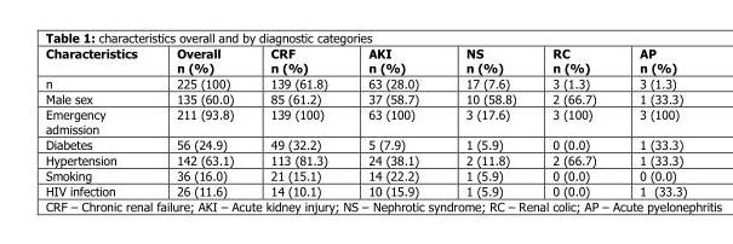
<table><thead><tr><td>Characteristics</td><td>Overall n (%)</td><td>CRF n (%)</td><td>AKI n (%)</td><td>NS n (%)</td><td>RC n (%)</td><td>AP n (%)</td></tr></thead><tbody><tr><td>n</td><td>225 (100)</td><td>139 (61.8)</td><td>63 (28.0)</td><td>17 (7.6)</td><td>3 (1.3)</td><td>3 (1.3)</td></tr><tr><td>Male sex</td><td>135 (60.0)</td><td>85 (61.2)</td><td>37 (58.7)</td><td>10 (58.8)</td><td>2 (66.7)</td><td>1 (33.3)</td></tr><tr><td>Emergency admission</td><td>211 (93.8)</td><td>139 (100)</td><td>63 (100)</td><td>3 (17.6)</td><td>3 (100)</td><td>3 (100)</td></tr><tr><td>Diabetes</td><td>56 (24.9)</td><td>49 (32.2)</td><td>5 (7.9)</td><td>1 (5.9)</td><td>0 (0.0)</td><td>1 (33.3)</td></tr><tr><td>Hypertension</td><td>142 (63.1)</td><td>113 (81.3)</td><td>24 (38.1)</td><td>2 (11.8)</td><td>2 (66.7)</td><td>1 (33.3)</td></tr><tr><td>Smoking</td><td>36 (16.0)</td><td>21 (15.1)</td><td>14 (22.2)</td><td>1 (5.9)</td><td>0 (0.0)</td><td>0 (0.0)</td></tr><tr><td>HIV infection</td><td>26 (11.6)</td><td>14 (10.1)</td><td>10 (15.9)</td><td>1 (5.9)</td><td>0 (0.0)</td><td>1 (33.3)</td></tr></tbody></table>